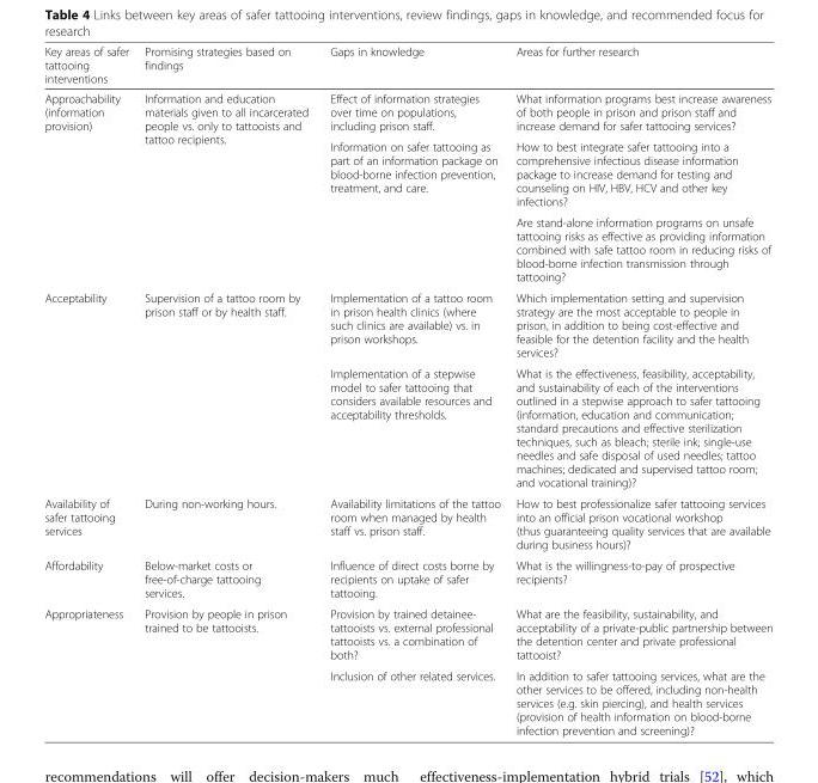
<table><thead><tr><td>Key areas of safer tattooing interventions</td><td>Promising strategies based on findings</td><td>Gaps in knowledge</td><td>Areas for further research</td></tr></thead><tbody><tr><td rowspan="3">Approachability (information provision)</td><td rowspan="3">Information and education materials given to all incarcerated people vs. only to tattooists and tattoo recipients.</td><td>Effect of information strategies over time on populations, including prison staff.</td><td>What information programs best increase awareness of both people in prison and prison staff and increase demand for safer tattooing services?</td></tr><tr><td rowspan="2">Information on safer tattooing as part of an information package on blood-borne infection prevention, treatment, and care.</td><td>How to best integrate safer tattooing into a comprehensive infectious disease information package to increase demand for testing and counseling on HIV, HBV, HCV and other key infections?</td></tr><tr><td>Are stand-alone information programs on unsafe tattooing risks as effective as providing information combined with safe tattoo room in reducing risks of blood-borne infection transmission through tattooing?</td></tr><tr><td rowspan="2">Acceptability</td><td rowspan="2">Supervision of a tattoo room by prison staff or by health staff.</td><td>Implementation of a tattoo room in prison health clinics (where such clinics are available) vs. in prison workshops.</td><td>Which implementation setting and supervision strategy are the most acceptable to people in prison, in addition to being cost-effective and feasible for the detention facility and the health services?</td></tr><tr><td>Implementation of a stepwise model to safer tattooing that considers available resources and acceptability thresholds.</td><td>What is the effectiveness, feasibility, acceptability, and sustainability of each of the interventions outlined in a stepwise approach to safer tattooing (information, education and communication; standard precautions and effective sterilization techniques, such as bleach; sterile ink; single-use needles and safe disposal of used needles; tattoo machines; dedicated and supervised tattoo room; and vocational training)?</td></tr><tr><td>Availability of safer tattooing services</td><td>During non-working hours.</td><td>Availability limitations of the tattoo room when managed by health staff vs. prison staff.</td><td>How to best professionalize safer tattooing services into an official prison vocational workshop (thus guaranteeing quality services that are available during business hours)?</td></tr><tr><td>Affordability</td><td>Below-market costs or free-of-charge tattooing services.</td><td>Influence of direct costs borne by recipients on uptake of safer tattooing.</td><td>What is the willingness-to-pay of prospective recipients?</td></tr><tr><td rowspan="2">Appropriateness</td><td rowspan="2">Provision by people in prison trained to be tattooists.</td><td>Provision by trained detainee- tattooists vs. external professional tattooists vs. a combination of both?</td><td>What are the feasibility, sustainability, and acceptability of a private-public partnership between the detention center and private professional tattooist?</td></tr><tr><td>Inclusion of other related services.</td><td>In addition to safer tattooing services, what are the other services to be offered, including non-health services (e.g. skin piercing), and health services (provision of health information on blood-borne infection prevention and screening)?</td></tr></tbody></table>